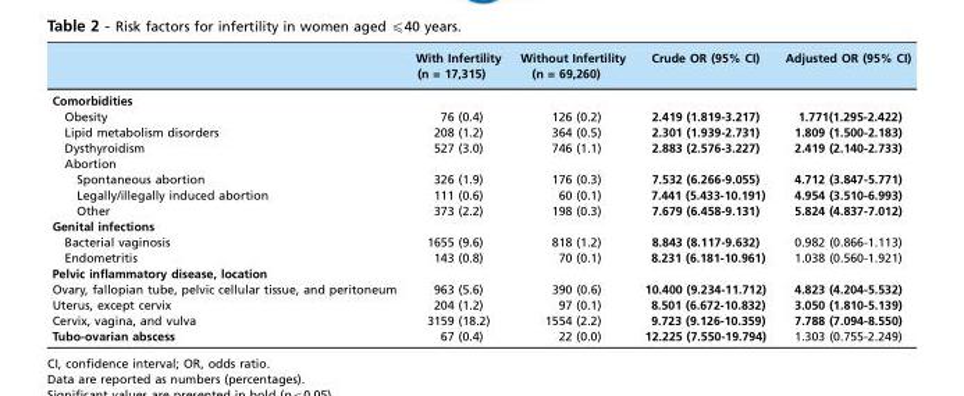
<table><thead><tr><td></td><td>With Infertility (n = 17,315)</td><td>Without Infertility (n = 69,260)</td><td>Crude OR (95% CI)</td><td>Adjusted OR (95% CI)</td></tr></thead><tbody><tr><td colspan="5">Comorbidities</td></tr><tr><td>Obesity</td><td>76 (0.4)</td><td>126 (0.2)</td><td>2.419 (1.819-3.217)</td><td>1.771(1.295-2.422)</td></tr><tr><td>Lipid metabolism disorders</td><td>208 (1.2)</td><td>364 (0.5)</td><td>2.301 (1.939-2.731)</td><td>1.809 (1.500-2.183)</td></tr><tr><td>Dysthyroidism</td><td>527 (3.0)</td><td>746 (1.1)</td><td>2.883 (2.576-3.227)</td><td>2.419 (2.140-2.733)</td></tr><tr><td colspan="5">Abortion</td></tr><tr><td>Spontaneous abortion</td><td>326 (1.9)</td><td>176 (0.3)</td><td>7.532 (6.266-9.055)</td><td>4.712 (3.847-5.771)</td></tr><tr><td>Legally/illegally induced abortion</td><td>111 (0.6)</td><td>60 (0.1)</td><td>7.441 (5.433-10.191)</td><td>4.954 (3.510-6.993)</td></tr><tr><td>Other</td><td>373 (2.2)</td><td>198 (0.3)</td><td>7.679 (6.458-9.131)</td><td>5.824 (4.837-7.012)</td></tr><tr><td colspan="5">Genital infections</td></tr><tr><td>Bacterial vaginosis</td><td>1655 (9.6)</td><td>818 (1.2)</td><td>8.843 (8.117-9.632)</td><td>0.982 (0.866-1.113)</td></tr><tr><td>Endometritis</td><td>143 (0.8)</td><td>70 (0.1)</td><td>8.231 (6.181-10.961)</td><td>1.038 (0.560-1.921)</td></tr><tr><td colspan="5">Pelvic inflammatory disease, location</td></tr><tr><td>Ovary, fallopian tube, pelvic cellular tissue, and peritoneum</td><td>963 (5.6)</td><td>390 (0.6)</td><td>10.400 (9.234-11.712)</td><td>4.823 (4.204-5.532)</td></tr><tr><td>Uterus, except cervix</td><td>204 (1.2)</td><td>97 (0.1)</td><td>8.501 (6.672-10.832)</td><td>3.050 (1.810-5.139)</td></tr><tr><td>Cervix, vagina, and vulva</td><td>3159 (18.2)</td><td>1554 (2.2)</td><td>9.723 (9.126-10.359)</td><td>7.788 (7.094-8.550)</td></tr><tr><td>Tubo-ovarian abscess</td><td>67 (0.4)</td><td>22 (0.0)</td><td>12.225 (7.550-19.794)</td><td>1.303 (0.755-2.249)</td></tr></tbody></table>